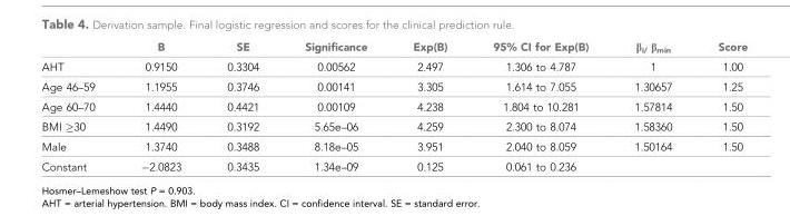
<table><thead><tr><td></td><td>B</td><td>SE</td><td>Significance</td><td>Exp(B)</td><td>95% CI for Exp(B)</td><td>β<sub>i/</sub> β<sub>min</sub></td><td>Score</td></tr></thead><tbody><tr><td>AHT</td><td>0.9150</td><td>0.3304</td><td>0.00562</td><td>2.497</td><td>1.306 to 4.787</td><td>1</td><td>1.00</td></tr><tr><td>Age 46–59</td><td>1.1955</td><td>0.3746</td><td>0.00141</td><td>3.305</td><td>1.614 to 7.055</td><td>1.30657</td><td>1.25</td></tr><tr><td>Age 60–70</td><td>1.4440</td><td>0.4421</td><td>0.00109</td><td>4.238</td><td>1.804 to 10.281</td><td>1.57814</td><td>1.50</td></tr><tr><td>BMI ≥30</td><td>1.4490</td><td>0.3192</td><td>5.65e–06</td><td>4.259</td><td>2.300 to 8.074</td><td>1.58360</td><td>1.50</td></tr><tr><td>Male</td><td>1.3740</td><td>0.3488</td><td>8.18e–05</td><td>3.951</td><td>2.040 to 8.059</td><td>1.50164</td><td>1.50</td></tr><tr><td>Constant</td><td>−2.0823</td><td>0.3435</td><td>1.34e–09</td><td>0.125</td><td>0.061 to 0.236</td><td></td><td></td></tr></tbody></table>